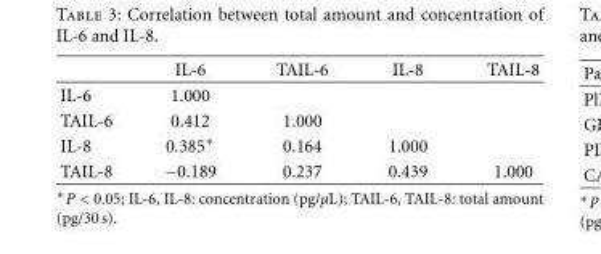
<table><thead><tr><td></td><td>IL-6</td><td>TAIL-6</td><td>IL-8</td><td>TAIL-8</td></tr></thead><tbody><tr><td>IL-6</td><td>1.000</td><td></td><td></td><td></td></tr><tr><td>TAIL-6</td><td>0.412</td><td>1.000</td><td></td><td></td></tr><tr><td>IL-8</td><td>0.385∗</td><td>0.164</td><td>1.000</td><td></td></tr><tr><td>TAIL-8</td><td>−0.189</td><td>0.237</td><td>0.439</td><td>1.000</td></tr></tbody></table>